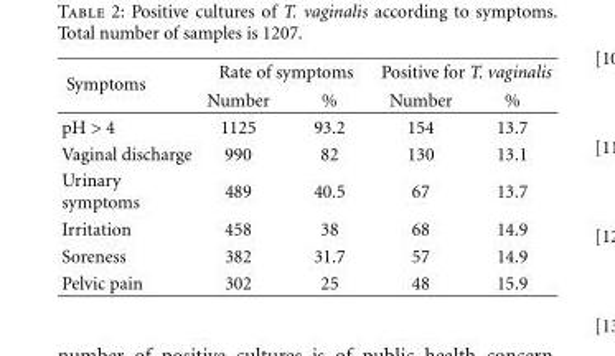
<table><thead><tr><td rowspan="2">Symptoms</td><td colspan="2">Rate of symptoms</td><td colspan="2">Positive for T. vaginalis</td></tr><tr><td>Number</td><td>%</td><td>Number</td><td>%</td></tr></thead><tbody><tr><td>pH &gt; 4</td><td>1125</td><td>93.2</td><td>154</td><td>13.7</td></tr><tr><td>Vaginal discharge</td><td>990</td><td>82</td><td>130</td><td>13.1</td></tr><tr><td>Urinary symptoms</td><td>489</td><td>40.5</td><td>67</td><td>13.7</td></tr><tr><td>Irritation</td><td>458</td><td>38</td><td>68</td><td>14.9</td></tr><tr><td>Soreness</td><td>382</td><td>31.7</td><td>57</td><td>14.9</td></tr><tr><td>Pelvic pain</td><td>302</td><td>25</td><td>48</td><td>15.9</td></tr></tbody></table>